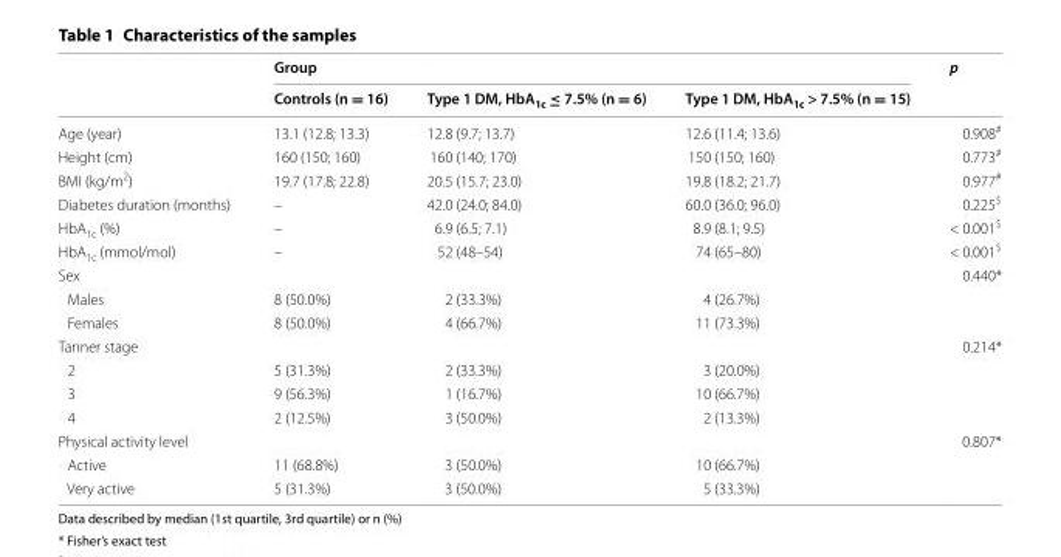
<table><thead><tr><td rowspan="2"></td><td colspan="3">Group</td><td rowspan="2">p</td></tr><tr><td>Controls (n = 16)</td><td>Type 1 DM, HbA<sub>1c</sub> ≤ 7.5% (n = 6)</td><td>Type 1 DM, HbA<sub>1c</sub> &gt; 7.5% (n = 15)</td></tr></thead><tbody><tr><td>Age (year)</td><td>13.1 (12.8; 13.3)</td><td>12.8 (9.7; 13.7)</td><td>12.6 (11.4; 13.6)</td><td>0.908<sup>#</sup></td></tr><tr><td>Height (cm)</td><td>160 (150; 160)</td><td>160 (140; 170)</td><td>150 (150; 160)</td><td>0.773<sup>#</sup></td></tr><tr><td>BMI (kg/m<sup>2</sup>)</td><td>19.7 (17.8; 22.8)</td><td>20.5 (15.7; 23.0)</td><td>19.8 (18.2; 21.7)</td><td>0.977<sup>#</sup></td></tr><tr><td>Diabetes duration (months)</td><td>–</td><td>42.0 (24.0; 84.0)</td><td>60.0 (36.0; 96.0)</td><td>0.225<sup>$</sup></td></tr><tr><td>HbA<sub>1c</sub> (%)</td><td>–</td><td>6.9 (6.5; 7.1)</td><td>8.9 (8.1; 9.5)</td><td>&lt; 0.001<sup>$</sup></td></tr><tr><td>HbA<sub>1c</sub> (mmol/mol)</td><td>–</td><td>52 (48–54)</td><td>74 (65–80)</td><td>&lt; 0.001<sup>$</sup></td></tr><tr><td>Sex</td><td></td><td></td><td></td><td>0.440*</td></tr><tr><td>Males</td><td>8 (50.0%)</td><td>2 (33.3%)</td><td>4 (26.7%)</td><td></td></tr><tr><td>Females</td><td>8 (50.0%)</td><td>4 (66.7%)</td><td>11 (73.3%)</td><td></td></tr><tr><td>Tanner stage</td><td></td><td></td><td></td><td>0.214*</td></tr><tr><td>2</td><td>5 (31.3%)</td><td>2 (33.3%)</td><td>3 (20.0%)</td><td></td></tr><tr><td>3</td><td>9 (56.3%)</td><td>1 (16.7%)</td><td>10 (66.7%)</td><td></td></tr><tr><td>4</td><td>2 (12.5%)</td><td>3 (50.0%)</td><td>2 (13.3%)</td><td></td></tr><tr><td>Physical activity level</td><td></td><td></td><td></td><td>0.807*</td></tr><tr><td>Active</td><td>11 (68.8%)</td><td>3 (50.0%)</td><td>10 (66.7%)</td><td></td></tr><tr><td>Very active</td><td>5 (31.3%)</td><td>3 (50.0%)</td><td>5 (33.3%)</td><td></td></tr></tbody></table>